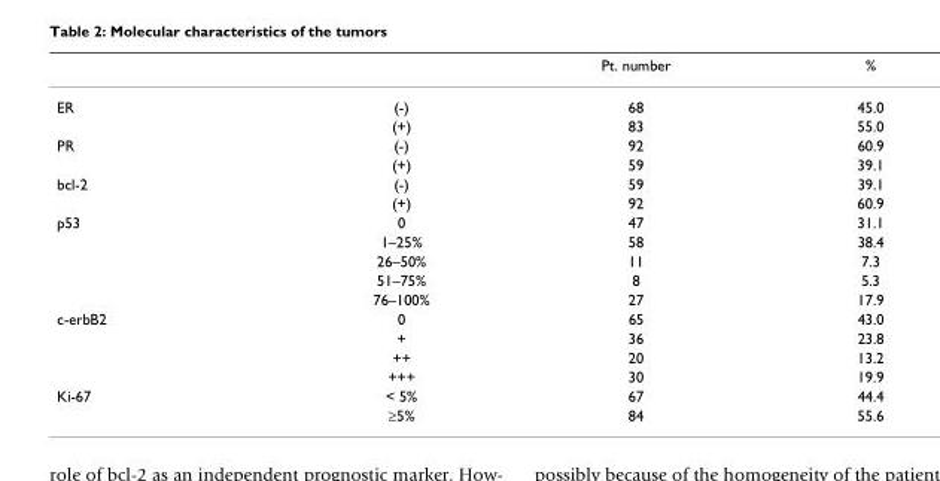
<table><thead><tr><td></td><td></td><td>Pt. number</td><td>%</td></tr></thead><tbody><tr><td rowspan="2">ER</td><td>(-)</td><td>68</td><td>45.0</td></tr><tr><td>(+)</td><td>83</td><td>55.0</td></tr><tr><td rowspan="2">PR</td><td>(-)</td><td>92</td><td>60.9</td></tr><tr><td>(+)</td><td>59</td><td>39.1</td></tr><tr><td rowspan="2">bcl-2</td><td>(-)</td><td>59</td><td>39.1</td></tr><tr><td>(+)</td><td>92</td><td>60.9</td></tr><tr><td rowspan="5">p53</td><td>0</td><td>47</td><td>31.1</td></tr><tr><td>1–25%</td><td>58</td><td>38.4</td></tr><tr><td>26–50%</td><td>11</td><td>7.3</td></tr><tr><td>51–75%</td><td>8</td><td>5.3</td></tr><tr><td>76–100%</td><td>27</td><td>17.9</td></tr><tr><td rowspan="4">c-erbB2</td><td>0</td><td>65</td><td>43.0</td></tr><tr><td>+</td><td>36</td><td>23.8</td></tr><tr><td>++</td><td>20</td><td>13.2</td></tr><tr><td>+++</td><td>30</td><td>19.9</td></tr><tr><td rowspan="2">Ki-67</td><td>&lt; 5%</td><td>67</td><td>44.4</td></tr><tr><td>≥5%</td><td>84</td><td>55.6</td></tr></tbody></table>